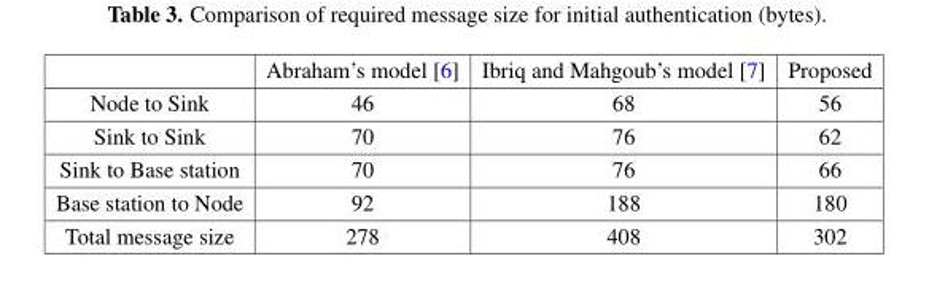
<table><thead><tr><td></td><td>Abraham’s model [6]</td><td>Ibriq and Mahgoub’s model [7]</td><td>Proposed</td></tr></thead><tbody><tr><td>Node to Sink</td><td>46</td><td>68</td><td>56</td></tr><tr><td>Sink to Sink</td><td>70</td><td>76</td><td>62</td></tr><tr><td>Sink to Base station</td><td>70</td><td>76</td><td>66</td></tr><tr><td>Base station to Node</td><td>92</td><td>188</td><td>180</td></tr><tr><td>Total message size</td><td>278</td><td>408</td><td>302</td></tr></tbody></table>